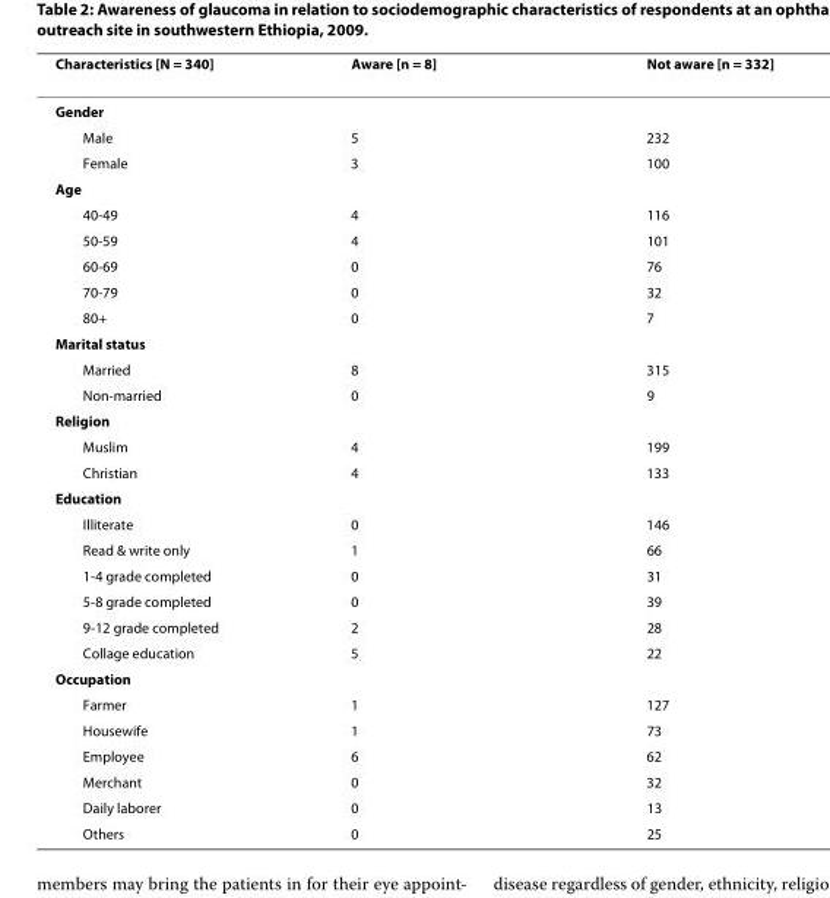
<table><thead><tr><td>Characteristics [N = 340]</td><td>Aware [n = 8]</td><td>Not aware [n = 332]</td></tr></thead><tbody><tr><td colspan="3">Gender</td></tr><tr><td>Male</td><td>5</td><td>232</td></tr><tr><td>Female</td><td>3</td><td>100</td></tr><tr><td colspan="3">Age</td></tr><tr><td>40-49</td><td>4</td><td>116</td></tr><tr><td>50-59</td><td>4</td><td>101</td></tr><tr><td>60-69</td><td>0</td><td>76</td></tr><tr><td>70-79</td><td>0</td><td>32</td></tr><tr><td>80+</td><td>0</td><td>7</td></tr><tr><td colspan="3">Marital status</td></tr><tr><td>Married</td><td>8</td><td>315</td></tr><tr><td>Non-married</td><td>0</td><td>9</td></tr><tr><td colspan="3">Religion</td></tr><tr><td>Muslim</td><td>4</td><td>199</td></tr><tr><td>Christian</td><td>4</td><td>133</td></tr><tr><td colspan="3">Education</td></tr><tr><td>Illiterate</td><td>0</td><td>146</td></tr><tr><td>Read &amp; write only</td><td>1</td><td>66</td></tr><tr><td>1-4 grade completed</td><td>0</td><td>31</td></tr><tr><td>5-8 grade completed</td><td>0</td><td>39</td></tr><tr><td>9-12 grade completed</td><td>2</td><td>28</td></tr><tr><td>Collage education</td><td>5</td><td>22</td></tr><tr><td colspan="3">Occupation</td></tr><tr><td>Farmer</td><td>1</td><td>127</td></tr><tr><td>Housewife</td><td>1</td><td>73</td></tr><tr><td>Employee</td><td>6</td><td>62</td></tr><tr><td>Merchant</td><td>0</td><td>32</td></tr><tr><td>Daily laborer</td><td>0</td><td>13</td></tr><tr><td>Others</td><td>0</td><td>25</td></tr></tbody></table>